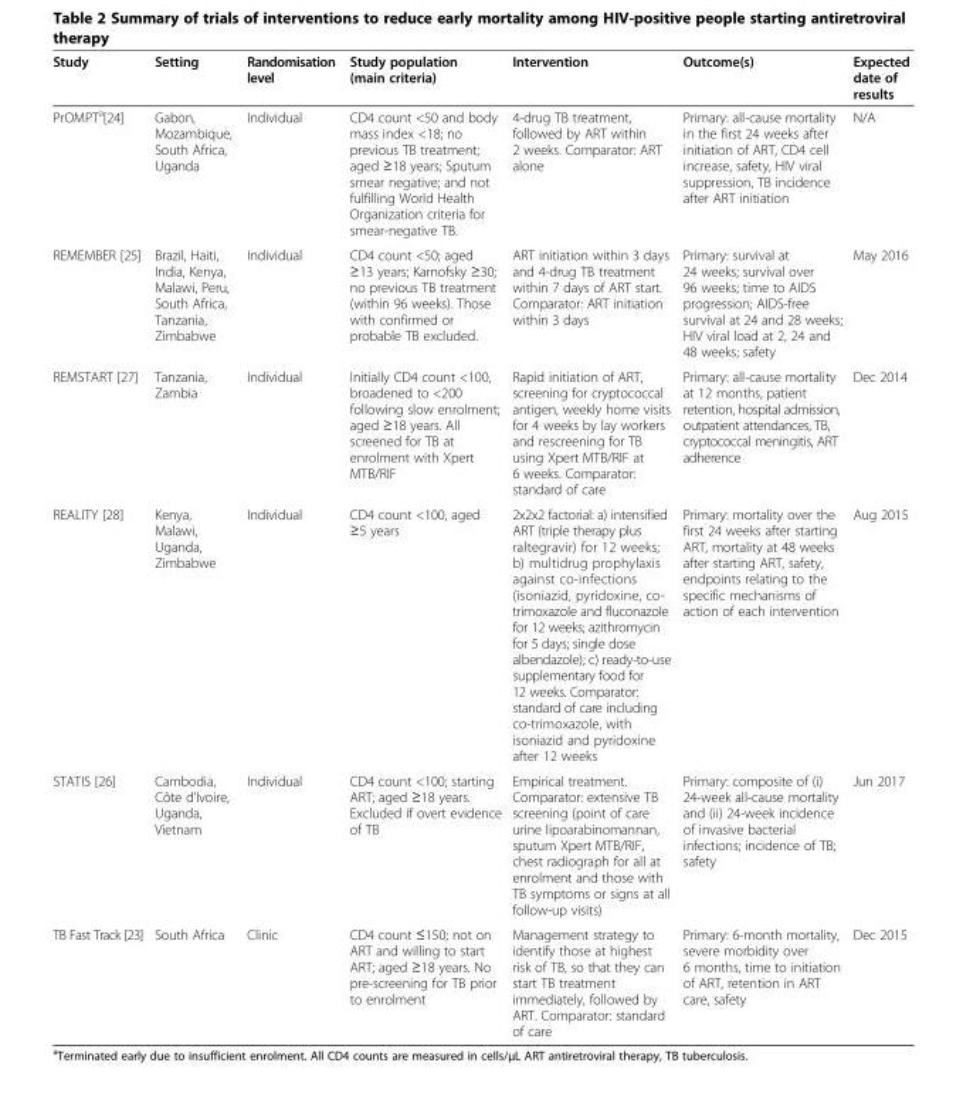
<table><thead><tr><td>Study</td><td>Setting</td><td>Randomisation level</td><td>Study population (main criteria)</td><td>Intervention</td><td>Outcome(s)</td><td>Expected date of results</td></tr></thead><tbody><tr><td>PrOMPT<sup>a</sup>[24]</td><td>Gabon, Mozambique, South Africa, Uganda</td><td>Individual</td><td>CD4 count &lt;50 and body mass index &lt;18; no previous TB treatment; aged ≥18 years; Sputum smear negative; and not fulfilling World Health Organization criteria for smear-negative TB.</td><td>4-drug TB treatment, followed by ART within 2 weeks. Comparator: ART alone</td><td>Primary: all-cause mortality in the first 24 weeks after initiation of ART, CD4 cell increase, safety, HIV viral suppression, TB incidence after ART initiation</td><td>N/A</td></tr><tr><td>REMEMBER [25]</td><td>Brazil, Haiti, India, Kenya, Malawi, Peru, South Africa, Tanzania, Zimbabwe</td><td>Individual</td><td>CD4 count &lt;50; aged ≥13 years; Karnofsky ≥30; no previous TB treatment (within 96 weeks). Those with confirmed or probable TB excluded.</td><td>ART initiation within 3 days and 4-drug TB treatment within 7 days of ART start. Comparator: ART initiation within 3 days</td><td>Primary: survival at 24 weeks; survival over 96 weeks; time to AIDS progression; AIDS-free survival at 24 and 28 weeks; HIV viral load at 2, 24 and 48 weeks; safety</td><td>May 2016</td></tr><tr><td>REMSTART [27]</td><td>Tanzania, Zambia</td><td>Individual</td><td>Initially CD4 count &lt;100, broadened to &lt;200 following slow enrolment; aged ≥18 years. All screened for TB at enrolment with Xpert MTB/RIF</td><td>Rapid initiation of ART, screening for cryptococcal antigen, weekly home visits for 4 weeks by lay workers and rescreening for TB using Xpert MTB/RIF at 6 weeks. Comparator: standard of care</td><td>Primary: all-cause mortality at 12 months, patient retention, hospital admission, outpatient attendances, TB, cryptococcal meningitis, ART adherence</td><td>Dec 2014</td></tr><tr><td>REALITY [28]</td><td>Kenya, Malawi, Uganda, Zimbabwe</td><td>Individual</td><td>CD4 count &lt;100, aged ≥5 years</td><td>2x2x2 factorial: a) intensified ART (triple therapy plus raltegravir) for 12 weeks; b) multidrug prophylaxis against co-infections (isoniazid, pyridoxine, co- trimoxazole and fluconazole for 12 weeks; azithromycin for 5 days; single dose albendazole); c) ready-to-use supplementary food for 12 weeks. Comparator: standard of care including co-trimoxazole, with isoniazid and pyridoxine after 12 weeks</td><td>Primary: mortality over the first 24 weeks after starting ART, mortality at 48 weeks after starting ART, safety, endpoints relating to the specific mechanisms of action of each intervention</td><td>Aug 2015</td></tr><tr><td>STATIS [26]</td><td>Cambodia, Côte d’Ivoire, Uganda, Vietnam</td><td>Individual</td><td>CD4 count &lt;100; starting ART; aged ≥18 years. Excluded if overt evidence of TB</td><td>Empirical treatment. Comparator: extensive TB screening (point of care urine lipoarabinomannan, sputum Xpert MTB/RIF, chest radiograph for all at enrolment and those with TB symptoms or signs at all follow-up visits)</td><td>Primary: composite of (i) 24-week all-cause mortality and (ii) 24-week incidence of invasive bacterial infections; incidence of TB; safety</td><td>Jun 2017</td></tr><tr><td>TB Fast Track [23]</td><td>South Africa</td><td>Clinic</td><td>CD4 count ≤150; not on ART and willing to start ART; aged ≥18 years. No pre-screening for TB prior to enrolment</td><td>Management strategy to identify those at highest risk of TB, so that they can start TB treatment immediately, followed by ART. Comparator: standard of care</td><td>Primary: 6-month mortality, severe morbidity over 6 months, time to initiation of ART, retention in ART care, safety</td><td>Dec 2015</td></tr></tbody></table>